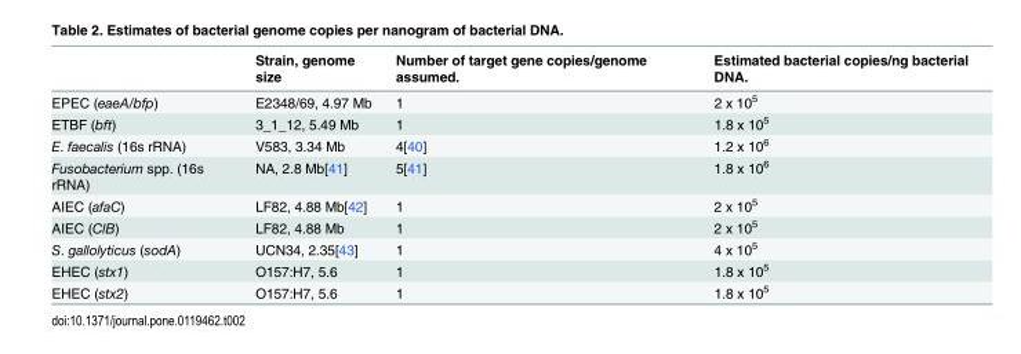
<table><thead><tr><td></td><td>Strain, genome size</td><td>Number of target gene copies/genome assumed.</td><td>Estimated bacterial copies/ng bacterial DNA.</td></tr></thead><tbody><tr><td>EPEC (eaeA/bfp)</td><td>E2348/69, 4.97 Mb</td><td>1</td><td>2 x 10<sup>5</sup></td></tr><tr><td>ETBF (bft)</td><td>3_1_12, 5.49 Mb</td><td>1</td><td>1.8 x 10<sup>5</sup></td></tr><tr><td>E. faecalis (16s rRNA)</td><td>V583, 3.34 Mb</td><td>4[40]</td><td>1.2 x 10<sup>6</sup></td></tr><tr><td>Fusobacterium spp. (16s rRNA)</td><td>NA, 2.8 Mb[41]</td><td>5[41]</td><td>1.8 x 10<sup>6</sup></td></tr><tr><td>AIEC (afaC)</td><td>LF82, 4.88 Mb[42]</td><td>1</td><td>2 x 10<sup>5</sup></td></tr><tr><td>AIEC (ClB)</td><td>LF82, 4.88 Mb</td><td>1</td><td>2 x 10<sup>5</sup></td></tr><tr><td>S. gallolyticus (sodA)</td><td>UCN34, 2.35[43]</td><td>1</td><td>4 x 10<sup>5</sup></td></tr><tr><td>EHEC (stx1)</td><td>O157:H7, 5.6</td><td>1</td><td>1.8 x 10<sup>5</sup></td></tr><tr><td>EHEC (stx2)</td><td>O157:H7, 5.6</td><td>1</td><td>1.8 x 10<sup>5</sup></td></tr></tbody></table>